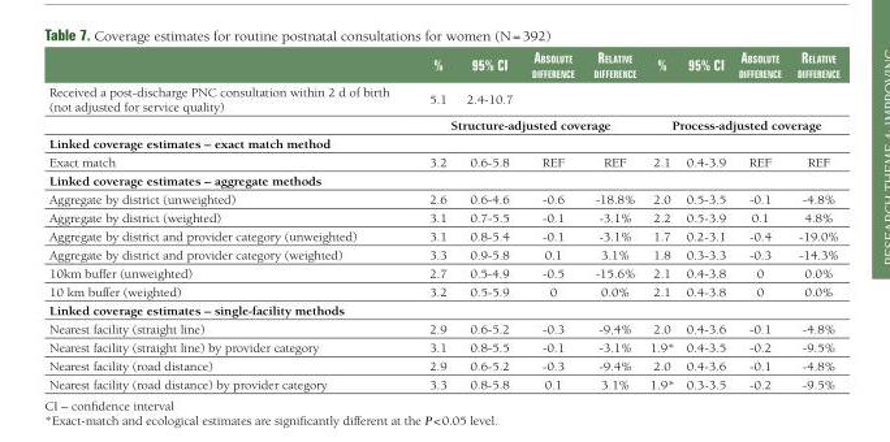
<table><thead><tr><td></td><td>%</td><td>95% CI</td><td>absOlute dIFFerenCe</td><td>relatIve dIFFerenCe</td><td>%</td><td>95% CI</td><td>absOlute dIFFerenCe</td><td>relatIve dIFFerenCe</td></tr></thead><tbody><tr><td rowspan="2">Received a post-discharge PNC consultation within 2 d of birth (not adjusted for service quality)</td><td>5.1</td><td>2.4-10.7</td><td></td><td></td><td></td><td></td><td></td><td></td></tr><tr><td colspan="4">Structure-adjusted coverage</td><td colspan="4">Process-adjusted coverage</td></tr><tr><td colspan="9">Linked coverage estimates – exact match method</td></tr><tr><td>Exact match</td><td>3.2</td><td>0.6-5.8</td><td>REF</td><td>REF</td><td>2.1</td><td>0.4-3.9</td><td>REF</td><td>REF</td></tr><tr><td colspan="9">Linked coverage estimates – aggregate methods</td></tr><tr><td>Aggregate by district (unweighted)</td><td>2.6</td><td>0.6-4.6</td><td>-0.6</td><td>-18.8%</td><td>2.0</td><td>0.5-3.5</td><td>-0.1</td><td>-4.8%</td></tr><tr><td>Aggregate by district (weighted)</td><td>3.1</td><td>0.7-5.5</td><td>-0.1</td><td>-3.1%</td><td>2.2</td><td>0.5-3.9</td><td>0.1</td><td>4.8%</td></tr><tr><td>Aggregate by district and provider category (unweighted)</td><td>3.1</td><td>0.8-5.4</td><td>-0.1</td><td>-3.1%</td><td>1.7</td><td>0.2-3.1</td><td>-0.4</td><td>-19.0%</td></tr><tr><td>Aggregate by district and provider category (weighted)</td><td>3.3</td><td>0.9-5.8</td><td>0.1</td><td>3.1%</td><td>1.8</td><td>0.3-3.3</td><td>-0.3</td><td>-14.3%</td></tr><tr><td>10km buffer (unweighted)</td><td>2.7</td><td>0.5-4.9</td><td>-0.5</td><td>-15.6%</td><td>2.1</td><td>0.4-3.8</td><td>0</td><td>0.0%</td></tr><tr><td>10 km buffer (weighted)</td><td>3.2</td><td>0.5-5.9</td><td>0</td><td>0.0%</td><td>2.1</td><td>0.4-3.8</td><td>0</td><td>0.0%</td></tr><tr><td colspan="9">Linked coverage estimates – single-facility methods</td></tr><tr><td>Nearest facility (straight line)</td><td>2.9</td><td>0.6-5.2</td><td>-0.3</td><td>-9.4%</td><td>2.0</td><td>0.4-3.6</td><td>-0.1</td><td>-4.8%</td></tr><tr><td>Nearest facility (straight line) by provider category</td><td>3.1</td><td>0.8-5.5</td><td>-0.1</td><td>-3.1%</td><td>1.9*</td><td>0.4-3.5</td><td>-0.2</td><td>-9.5%</td></tr><tr><td>Nearest facility (road distance)</td><td>2.9</td><td>0.6-5.2</td><td>-0.3</td><td>-9.4%</td><td>2.0</td><td>0.4-3.6</td><td>-0.1</td><td>-4.8%</td></tr><tr><td>Nearest facility (road distance) by provider category</td><td>3.3</td><td>0.8-5.8</td><td>0.1</td><td>3.1%</td><td>1.9*</td><td>0.3-3.5</td><td>-0.2</td><td>-9.5%</td></tr></tbody></table>